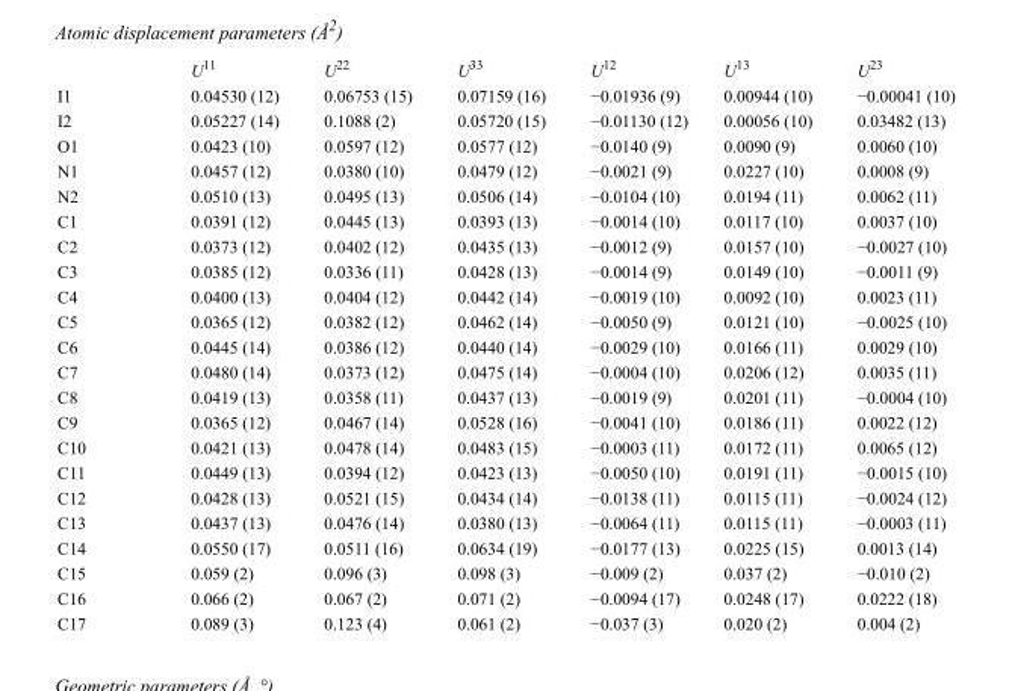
<table><thead><tr><td></td><td>U<sup>11</sup></td><td>U<sup>22</sup></td><td>U<sup>33</sup></td><td>U<sup>12</sup></td><td>U<sup>13</sup></td><td>U<sup>23</sup></td></tr></thead><tbody><tr><td>I1</td><td>0.04530 (12)</td><td>0.06753 (15)</td><td>0.07159 (16)</td><td>−0.01936 (9)</td><td>0.00944 (10)</td><td>−0.00041 (10)</td></tr><tr><td>I2</td><td>0.05227 (14)</td><td>0.1088 (2)</td><td>0.05720 (15)</td><td>−0.01130 (12)</td><td>0.00056 (10)</td><td>0.03482 (13)</td></tr><tr><td>O1</td><td>0.0423 (10)</td><td>0.0597 (12)</td><td>0.0577 (12)</td><td>−0.0140 (9)</td><td>0.0090 (9)</td><td>0.0060 (10)</td></tr><tr><td>N1</td><td>0.0457 (12)</td><td>0.0380 (10)</td><td>0.0479 (12)</td><td>−0.0021 (9)</td><td>0.0227 (10)</td><td>0.0008 (9)</td></tr><tr><td>N2</td><td>0.0510 (13)</td><td>0.0495 (13)</td><td>0.0506 (14)</td><td>−0.0104 (10)</td><td>0.0194 (11)</td><td>0.0062 (11)</td></tr><tr><td>C1</td><td>0.0391 (12)</td><td>0.0445 (13)</td><td>0.0393 (13)</td><td>−0.0014 (10)</td><td>0.0117 (10)</td><td>0.0037 (10)</td></tr><tr><td>C2</td><td>0.0373 (12)</td><td>0.0402 (12)</td><td>0.0435 (13)</td><td>−0.0012 (9)</td><td>0.0157 (10)</td><td>−0.0027 (10)</td></tr><tr><td>C3</td><td>0.0385 (12)</td><td>0.0336 (11)</td><td>0.0428 (13)</td><td>−0.0014 (9)</td><td>0.0149 (10)</td><td>−0.0011 (9)</td></tr><tr><td>C4</td><td>0.0400 (13)</td><td>0.0404 (12)</td><td>0.0442 (14)</td><td>−0.0019 (10)</td><td>0.0092 (10)</td><td>0.0023 (11)</td></tr><tr><td>C5</td><td>0.0365 (12)</td><td>0.0382 (12)</td><td>0.0462 (14)</td><td>−0.0050 (9)</td><td>0.0121 (10)</td><td>−0.0025 (10)</td></tr><tr><td>C6</td><td>0.0445 (14)</td><td>0.0386 (12)</td><td>0.0440 (14)</td><td>−0.0029 (10)</td><td>0.0166 (11)</td><td>0.0029 (10)</td></tr><tr><td>C7</td><td>0.0480 (14)</td><td>0.0373 (12)</td><td>0.0475 (14)</td><td>−0.0004 (10)</td><td>0.0206 (12)</td><td>0.0035 (11)</td></tr><tr><td>C8</td><td>0.0419 (13)</td><td>0.0358 (11)</td><td>0.0437 (13)</td><td>−0.0019 (9)</td><td>0.0201 (11)</td><td>−0.0004 (10)</td></tr><tr><td>C9</td><td>0.0365 (12)</td><td>0.0467 (14)</td><td>0.0528 (16)</td><td>−0.0041 (10)</td><td>0.0186 (11)</td><td>0.0022 (12)</td></tr><tr><td>C10</td><td>0.0421 (13)</td><td>0.0478 (14)</td><td>0.0483 (15)</td><td>−0.0003 (11)</td><td>0.0172 (11)</td><td>0.0065 (12)</td></tr><tr><td>C11</td><td>0.0449 (13)</td><td>0.0394 (12)</td><td>0.0423 (13)</td><td>−0.0050 (10)</td><td>0.0191 (11)</td><td>−0.0015 (10)</td></tr><tr><td>C12</td><td>0.0428 (13)</td><td>0.0521 (15)</td><td>0.0434 (14)</td><td>−0.0138 (11)</td><td>0.0115 (11)</td><td>−0.0024 (12)</td></tr><tr><td>C13</td><td>0.0437 (13)</td><td>0.0476 (14)</td><td>0.0380 (13)</td><td>−0.0064 (11)</td><td>0.0115 (11)</td><td>−0.0003 (11)</td></tr><tr><td>C14</td><td>0.0550 (17)</td><td>0.0511 (16)</td><td>0.0634 (19)</td><td>−0.0177 (13)</td><td>0.0225 (15)</td><td>0.0013 (14)</td></tr><tr><td>C15</td><td>0.059 (2)</td><td>0.096 (3)</td><td>0.098 (3)</td><td>−0.009 (2)</td><td>0.037 (2)</td><td>−0.010 (2)</td></tr><tr><td>C16</td><td>0.066 (2)</td><td>0.067 (2)</td><td>0.071 (2)</td><td>−0.0094 (17)</td><td>0.0248 (17)</td><td>0.0222 (18)</td></tr><tr><td>C17</td><td>0.089 (3)</td><td>0.123 (4)</td><td>0.061 (2)</td><td>−0.037 (3)</td><td>0.020 (2)</td><td>0.004 (2)</td></tr></tbody></table>